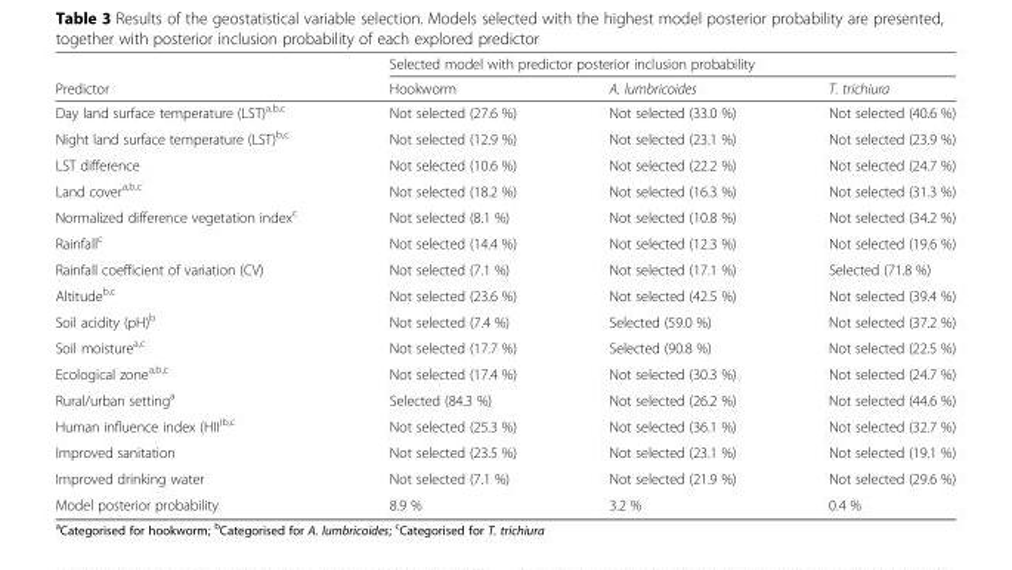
<table><thead><tr><td rowspan="2">Predictor</td><td colspan="3">Selected model with predictor posterior inclusion probability</td></tr><tr><td>Hookworm</td><td>A. lumbricoides</td><td>T. trichiura</td></tr></thead><tbody><tr><td>Day land surface temperature (LST)<sup>a,b,c</sup></td><td>Not selected (27.6 %)</td><td>Not selected (33.0 %)</td><td>Not selected (40.6 %)</td></tr><tr><td>Night land surface temperature (LST)<sup>b,c</sup></td><td>Not selected (12.9 %)</td><td>Not selected (23.1 %)</td><td>Not selected (23.9 %)</td></tr><tr><td>LST difference</td><td>Not selected (10.6 %)</td><td>Not selected (22.2 %)</td><td>Not selected (24.7 %)</td></tr><tr><td>Land cover<sup>a,b,c</sup></td><td>Not selected (18.2 %)</td><td>Not selected (16.3 %)</td><td>Not selected (31.3 %)</td></tr><tr><td>Normalized difference vegetation index<sup>c</sup></td><td>Not selected (8.1 %)</td><td>Not selected (10.8 %)</td><td>Not selected (34.2 %)</td></tr><tr><td>Rainfall<sup>c</sup></td><td>Not selected (14.4 %)</td><td>Not selected (12.3 %)</td><td>Not selected (19.6 %)</td></tr><tr><td>Rainfall coefficient of variation (CV)</td><td>Not selected (7.1 %)</td><td>Not selected (17.1 %)</td><td>Selected (71.8 %)</td></tr><tr><td>Altitude<sup>b,c</sup></td><td>Not selected (23.6 %)</td><td>Not selected (42.5 %)</td><td>Not selected (39.4 %)</td></tr><tr><td>Soil acidity (pH)<sup>b</sup></td><td>Not selected (7.4 %)</td><td>Selected (59.0 %)</td><td>Not selected (37.2 %)</td></tr><tr><td>Soil moisture<sup>a,c</sup></td><td>Not selected (17.7 %)</td><td>Selected (90.8 %)</td><td>Not selected (22.5 %)</td></tr><tr><td>Ecological zone<sup>a,b,c</sup></td><td>Not selected (17.4 %)</td><td>Not selected (30.3 %)</td><td>Not selected (24.7 %)</td></tr><tr><td>Rural/urban setting<sup>a</sup></td><td>Selected (84.3 %)</td><td>Not selected (26.2 %)</td><td>Not selected (44.6 %)</td></tr><tr><td>Human influence index (HII<sup>)b,c</sup></td><td>Not selected (25.3 %)</td><td>Not selected (36.1 %)</td><td>Not selected (32.7 %)</td></tr><tr><td>Improved sanitation</td><td>Not selected (23.5 %)</td><td>Not selected (23.1 %)</td><td>Not selected (19.1 %)</td></tr><tr><td>Improved drinking water</td><td>Not selected (7.1 %)</td><td>Not selected (21.9 %)</td><td>Not selected (29.6 %)</td></tr><tr><td>Model posterior probability</td><td>8.9 %</td><td>3.2 %</td><td>0.4 %</td></tr></tbody></table>